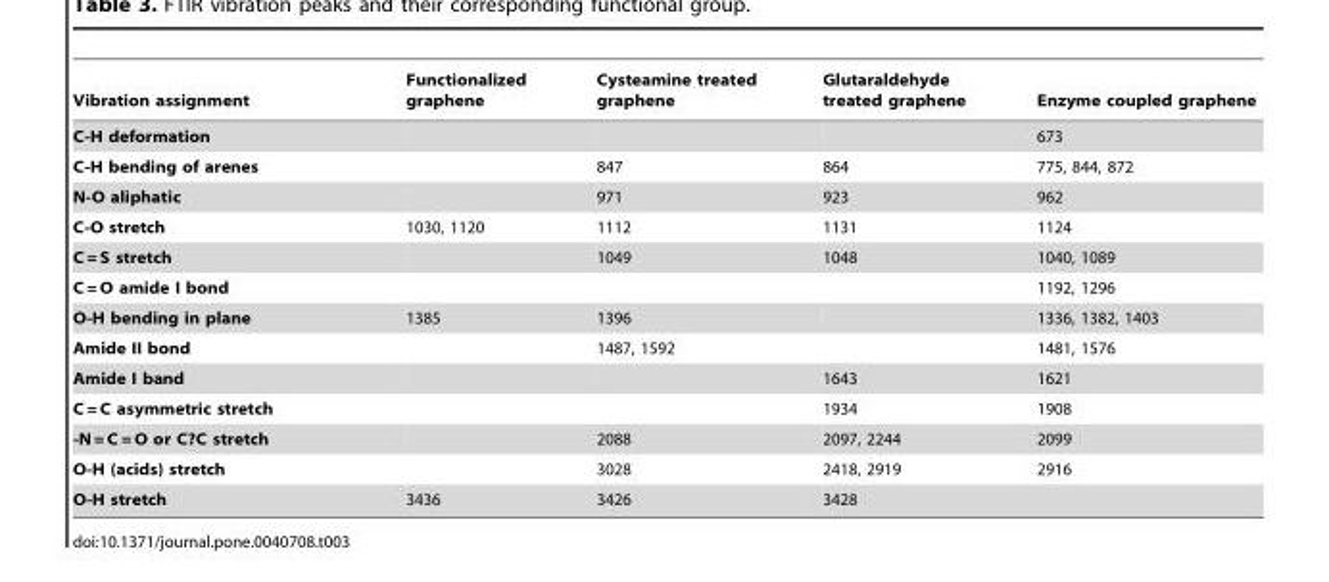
<table><thead><tr><td>Vibration assignment</td><td>Functionalized graphene</td><td>Cysteamine treated graphene</td><td>Glutaraldehyde treated graphene</td><td>Enzyme coupled graphene</td></tr></thead><tbody><tr><td>C-H deformation</td><td></td><td></td><td></td><td>673</td></tr><tr><td>C-H bending of arenes</td><td></td><td>847</td><td>864</td><td>775, 844, 872</td></tr><tr><td>N-O aliphatic</td><td></td><td>971</td><td>923</td><td>962</td></tr><tr><td>C-O stretch</td><td>1030, 1120</td><td>1112</td><td>1131</td><td>1124</td></tr><tr><td>C = S stretch</td><td></td><td>1049</td><td>1048</td><td>1040, 1089</td></tr><tr><td>C = O amide I bond</td><td></td><td></td><td></td><td>1192, 1296</td></tr><tr><td>O-H bending in plane</td><td>1385</td><td>1396</td><td></td><td>1336, 1382, 1403</td></tr><tr><td>Amide II bond</td><td></td><td>1487, 1592</td><td></td><td>1481, 1576</td></tr><tr><td>Amide I band</td><td></td><td></td><td>1643</td><td>1621</td></tr><tr><td>C = C asymmetric stretch</td><td></td><td></td><td>1934</td><td>1908</td></tr><tr><td>-N = C = O or C?C stretch</td><td></td><td>2088</td><td>2097, 2244</td><td>2099</td></tr><tr><td>O-H (acids) stretch</td><td></td><td>3028</td><td>2418, 2919</td><td>2916</td></tr><tr><td>O-H stretch</td><td>3436</td><td>3426</td><td>3428</td><td></td></tr></tbody></table>